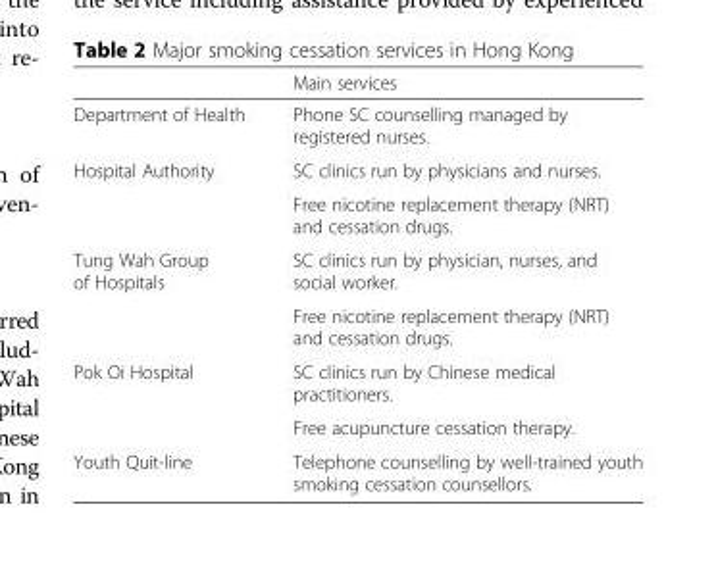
<table><thead><tr><td></td><td>Main services</td></tr></thead><tbody><tr><td>Department of Health</td><td>Phone SC counselling managed by registered nurses.</td></tr><tr><td rowspan="2">Hospital Authority</td><td>SC clinics run by physicians and nurses.</td></tr><tr><td>Free nicotine replacement therapy (NRT) and cessation drugs.</td></tr><tr><td rowspan="2">Tung Wah Group of Hospitals</td><td>SC clinics run by physician, nurses, and social worker.</td></tr><tr><td>Free nicotine replacement therapy (NRT) and cessation drugs.</td></tr><tr><td rowspan="2">Pok Oi Hospital</td><td>SC clinics run by Chinese medical practitioners.</td></tr><tr><td>Free acupuncture cessation therapy.</td></tr><tr><td>Youth Quit-line</td><td>Telephone counselling by well-trained youth smoking cessation counsellors.</td></tr></tbody></table>